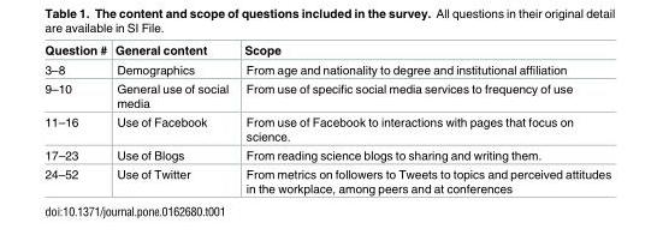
<table><thead><tr><td>Question #</td><td>General content</td><td>Scope</td></tr></thead><tbody><tr><td>3–8</td><td>Demographics</td><td>From age and nationality to degree and institutional affiliation</td></tr><tr><td>9–10</td><td>General use of social media</td><td>From use of specific social media services to frequency of use</td></tr><tr><td>11–16</td><td>Use of Facebook</td><td>From use of Facebook to interactions with pages that focus on science.</td></tr><tr><td>17–23</td><td>Use of Blogs</td><td>From reading science blogs to sharing and writing them.</td></tr><tr><td>24–52</td><td>Use of Twitter</td><td>From metrics on followers to Tweets to topics and perceived attitudes in the workplace, among peers and at conferences</td></tr></tbody></table>